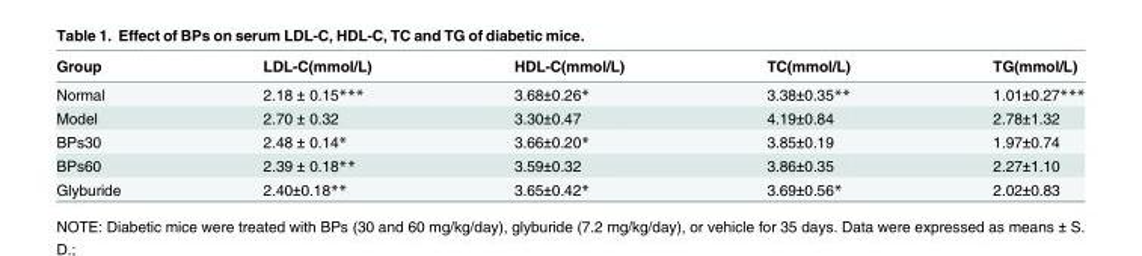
<table><thead><tr><td>Group</td><td>LDL-C(mmol/L)</td><td>HDL-C(mmol/L)</td><td>TC(mmol/L)</td><td>TG(mmol/L)</td></tr></thead><tbody><tr><td>Normal</td><td>2.18 ± 0.15***</td><td>3.68±0.26*</td><td>3.38±0.35**</td><td>1.01±0.27***</td></tr><tr><td>Model</td><td>2.70 ± 0.32</td><td>3.30±0.47</td><td>4.19±0.84</td><td>2.78±1.32</td></tr><tr><td>BPs30</td><td>2.48 ± 0.14*</td><td>3.66±0.20*</td><td>3.85±0.19</td><td>1.97±0.74</td></tr><tr><td>BPs60</td><td>2.39 ± 0.18**</td><td>3.59±0.32</td><td>3.86±0.35</td><td>2.27±1.10</td></tr><tr><td>Glyburide</td><td>2.40±0.18**</td><td>3.65±0.42*</td><td>3.69±0.56*</td><td>2.02±0.83</td></tr></tbody></table>